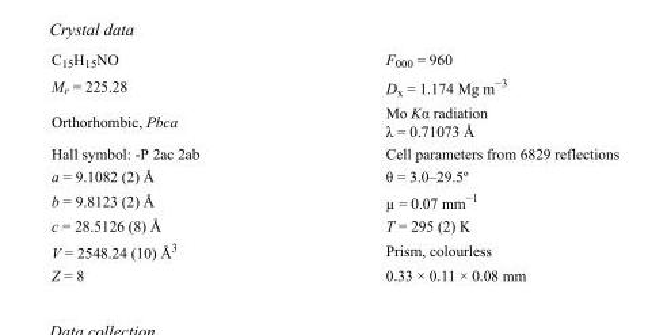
<table><tbody><tr><td>C<sub>15</sub>H<sub>15</sub>NO</td><td>F<sub>000</sub> = 960</td></tr><tr><td>M<sub>r</sub> = 225.28</td><td>D<sub>x</sub> = 1.174 Mg m<sup>−3</sup></td></tr><tr><td>Orthorhombic, Pbca</td><td>Mo Kα radiation λ = 0.71073 Å</td></tr><tr><td>Hall symbol: -P 2ac 2ab</td><td>Cell parameters from 6829 reflections</td></tr><tr><td>a = 9.1082 (2) Å</td><td>θ = 3.0–29.5º</td></tr><tr><td>b = 9.8123 (2) Å</td><td>µ = 0.07 mm<sup>−1</sup></td></tr><tr><td>c = 28.5126 (8) Å</td><td>T = 295 (2) K</td></tr><tr><td>V = 2548.24 (10) Å<sup>3</sup></td><td>Prism, colourless</td></tr><tr><td>Z = 8</td><td>0.33 × 0.11 × 0.08 mm</td></tr></tbody></table>